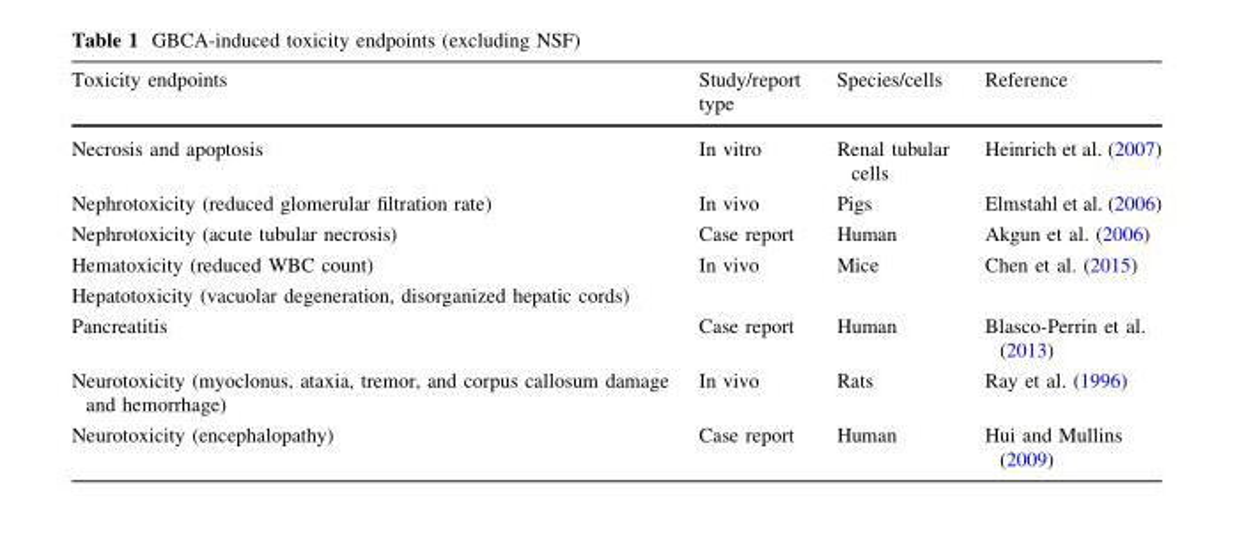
<table><thead><tr><td>Toxicity endpoints</td><td>Study/report type</td><td>Species/cells</td><td>Reference</td></tr></thead><tbody><tr><td>Necrosis and apoptosis</td><td>In vitro</td><td>Renal tubular cells</td><td>Heinrich et al. (2007)</td></tr><tr><td>Nephrotoxicity (reduced glomerular filtration rate)</td><td>In vivo</td><td>Pigs</td><td>Elmstahl et al. (2006)</td></tr><tr><td>Nephrotoxicity (acute tubular necrosis)</td><td>Case report</td><td>Human</td><td>Akgun et al. (2006)</td></tr><tr><td>Hematoxicity (reduced WBC count) Hepatotoxicity (vacuolar degeneration, disorganized hepatic cords)</td><td>In vivo</td><td>Mice</td><td>Chen et al. (2015)</td></tr><tr><td>Pancreatitis</td><td>Case report</td><td>Human</td><td>Blasco-Perrin et al. (2013)</td></tr><tr><td>Neurotoxicity (myoclonus, ataxia, tremor, and corpus callosum damage and hemorrhage)</td><td>In vivo</td><td>Rats</td><td>Ray et al. (1996)</td></tr><tr><td>Neurotoxicity (encephalopathy)</td><td>Case report</td><td>Human</td><td>Hui and Mullins (2009)</td></tr></tbody></table>